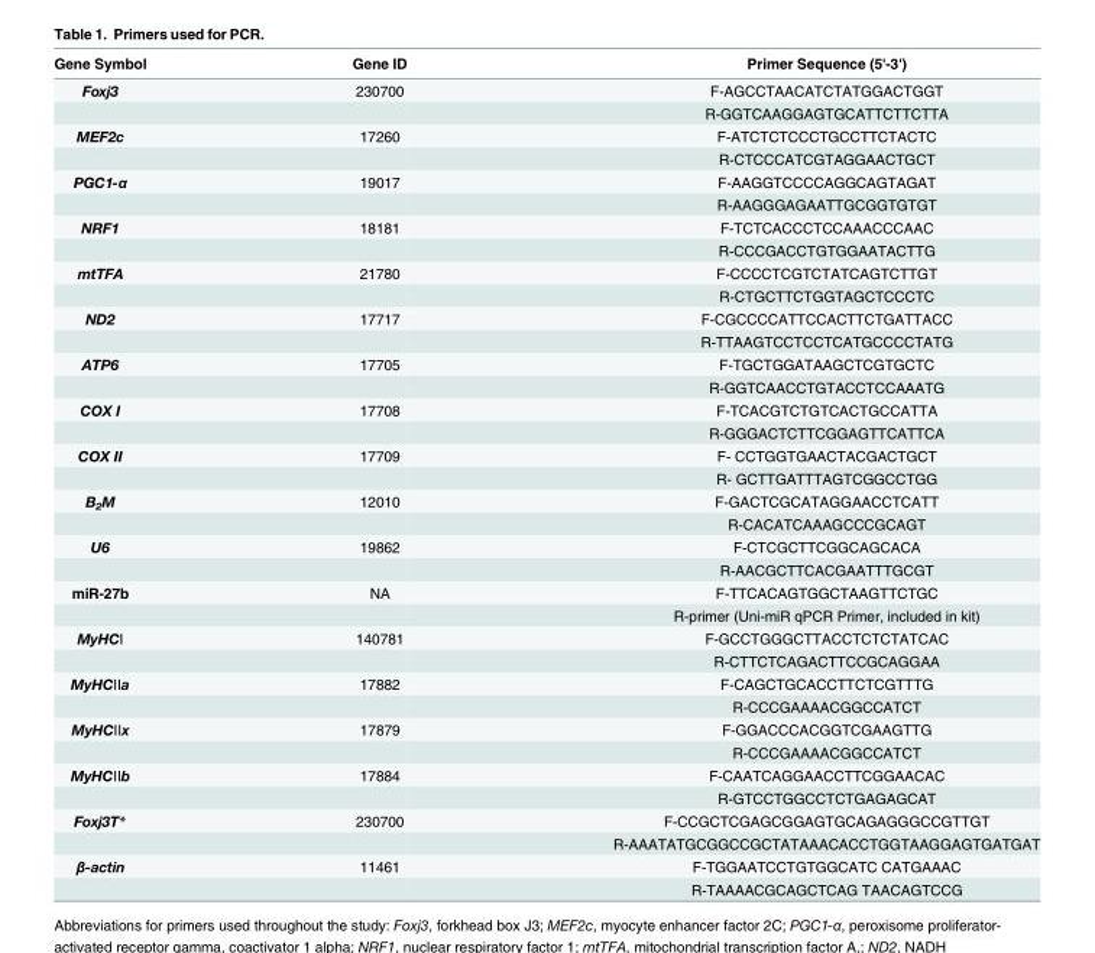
<table><thead><tr><td>Gene Symbol</td><td>Gene ID</td><td>Primer Sequence (5&#x27;-3&#x27;)</td></tr></thead><tbody><tr><td rowspan="2">Foxj3</td><td>230700</td><td>F-AGCCTAACATCTATGGACTGGT</td></tr><tr><td></td><td>R-GGTCAAGGAGTGCATTCTTCTTA</td></tr><tr><td rowspan="2">MEF2c</td><td>17260</td><td>F-ATCTCTCCCTGCCTTCTACTC</td></tr><tr><td></td><td>R-CTCCCATCGTAGGAACTGCT</td></tr><tr><td rowspan="2">PGC1-α</td><td>19017</td><td>F-AAGGTCCCCAGGCAGTAGAT</td></tr><tr><td></td><td>R-AAGGGAGAATTGCGGTGTGT</td></tr><tr><td rowspan="2">NRF1</td><td>18181</td><td>F-TCTCACCCTCCAAACCCAAC</td></tr><tr><td></td><td>R-CCCGACCTGTGGAATACTTG</td></tr><tr><td rowspan="2">mtTFA</td><td>21780</td><td>F-CCCCTCGTCTATCAGTCTTGT</td></tr><tr><td></td><td>R-CTGCTTCTGGTAGCTCCCTC</td></tr><tr><td rowspan="2">ND2</td><td>17717</td><td>F-CGCCCCATTCCACTTCTGATTACC</td></tr><tr><td></td><td>R-TTAAGTCCTCCTCATGCCCCTATG</td></tr><tr><td rowspan="2">ATP6</td><td>17705</td><td>F-TGCTGGATAAGCTCGTGCTC</td></tr><tr><td></td><td>R-GGTCAACCTGTACCTCCAAATG</td></tr><tr><td rowspan="2">COX I</td><td>17708</td><td>F-TCACGTCTGTCACTGCCATTA</td></tr><tr><td></td><td>R-GGGACTCTTCGGAGTTCATTCA</td></tr><tr><td rowspan="2">COX II</td><td>17709</td><td>F- CCTGGTGAACTACGACTGCT</td></tr><tr><td></td><td>R- GCTTGATTTAGTCGGCCTGG</td></tr><tr><td rowspan="2">B<sub>2</sub>M</td><td>12010</td><td>F-GACTCGCATAGGAACCTCATT</td></tr><tr><td></td><td>R-CACATCAAAGCCCGCAGT</td></tr><tr><td rowspan="2">U6</td><td>19862</td><td>F-CTCGCTTCGGCAGCACA</td></tr><tr><td></td><td>R-AACGCTTCACGAATTTGCGT</td></tr><tr><td rowspan="2">miR-27b</td><td>NA</td><td>F-TTCACAGTGGCTAAGTTCTGC</td></tr><tr><td></td><td>R-primer (Uni-miR qPCR Primer, included in kit)</td></tr><tr><td rowspan="2">MyHCⅠ</td><td>140781</td><td>F-GCCTGGGCTTACCTCTCTATCAC</td></tr><tr><td></td><td>R-CTTCTCAGACTTCCGCAGGAA</td></tr><tr><td rowspan="2">MyHCⅡa</td><td>17882</td><td>F-CAGCTGCACCTTCTCGTTTG</td></tr><tr><td></td><td>R-CCCGAAAACGGCCATCT</td></tr><tr><td rowspan="2">MyHCⅡx</td><td>17879</td><td>F-GGACCCACGGTCGAAGTTG</td></tr><tr><td></td><td>R-CCCGAAAACGGCCATCT</td></tr><tr><td rowspan="2">MyHCⅡb</td><td>17884</td><td>F-CAATCAGGAACCTTCGGAACAC</td></tr><tr><td></td><td>R-GTCCTGGCCTCTGAGAGCAT</td></tr><tr><td rowspan="2">Foxj3T*</td><td>230700</td><td>F-CCGCTCGAGCGGAGTGCAGAGGGCCGTTGT</td></tr><tr><td></td><td>R-AAATATGCGGCCGCTATAAACACCTGGTAAGGAGTGATGAT</td></tr><tr><td rowspan="2">β-actin</td><td>11461</td><td>F-TGGAATCCTGTGGCATC CATGAAAC</td></tr><tr><td></td><td>R-TAAAACGCAGCTCAG TAACAGTCCG</td></tr></tbody></table>